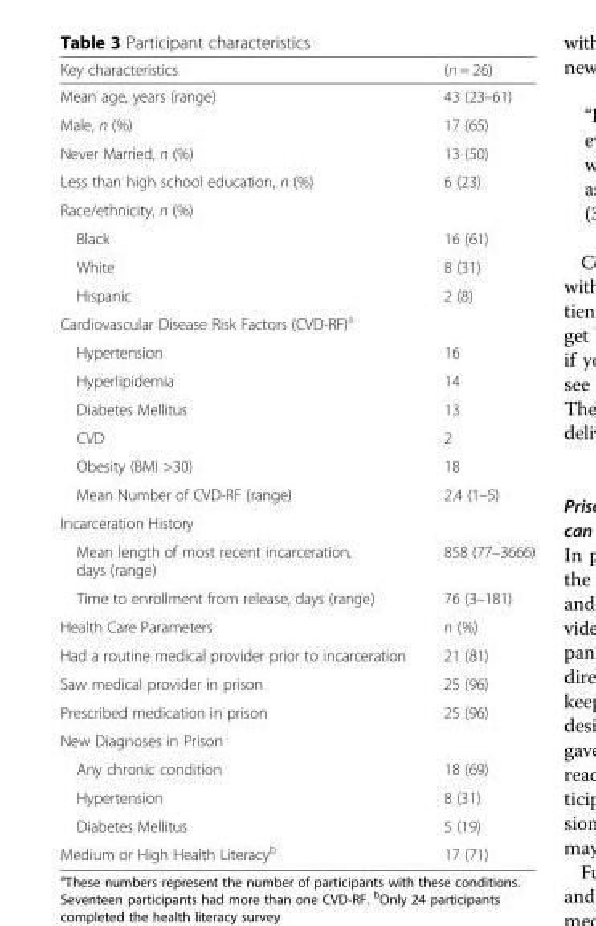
<table><thead><tr><td>Key characteristics</td><td>(n = 26)</td></tr></thead><tbody><tr><td>Mean age, years (range)</td><td>43 (23–61)</td></tr><tr><td>Male, n (%)</td><td>17 (65)</td></tr><tr><td>Never Married, n (%)</td><td>13 (50)</td></tr><tr><td>Less than high school education, n (%)</td><td>6 (23)</td></tr><tr><td colspan="2">Race/ethnicity, n (%)</td></tr><tr><td>Black</td><td>16 (61)</td></tr><tr><td>White</td><td>8 (31)</td></tr><tr><td>Hispanic</td><td>2 (8)</td></tr><tr><td colspan="2">Cardiovascular Disease Risk Factors (CVD-RF)<sup>a</sup></td></tr><tr><td>Hypertension</td><td>16</td></tr><tr><td>Hyperlipidemia</td><td>14</td></tr><tr><td>Diabetes Mellitus</td><td>13</td></tr><tr><td>CVD</td><td>2</td></tr><tr><td>Obesity (BMI &gt;30)</td><td>18</td></tr><tr><td>Mean Number of CVD-RF (range)</td><td>2.4 (1–5)</td></tr><tr><td colspan="2">Incarceration History</td></tr><tr><td>Mean length of most recent incarceration, days (range)</td><td>858 (77–3666)</td></tr><tr><td>Time to enrollment from release, days (range)</td><td>76 (3–181)</td></tr><tr><td>Health Care Parameters</td><td>n (%)</td></tr><tr><td>Had a routine medical provider prior to incarceration</td><td>21 (81)</td></tr><tr><td>Saw medical provider in prison</td><td>25 (96)</td></tr><tr><td>Prescribed medication in prison</td><td>25 (96)</td></tr><tr><td colspan="2">New Diagnoses in Prison</td></tr><tr><td>Any chronic condition</td><td>18 (69)</td></tr><tr><td>Hypertension</td><td>8 (31)</td></tr><tr><td>Diabetes Mellitus</td><td>5 (19)</td></tr><tr><td>Medium or High Health Literacy<sup>b</sup></td><td>17 (71)</td></tr></tbody></table>